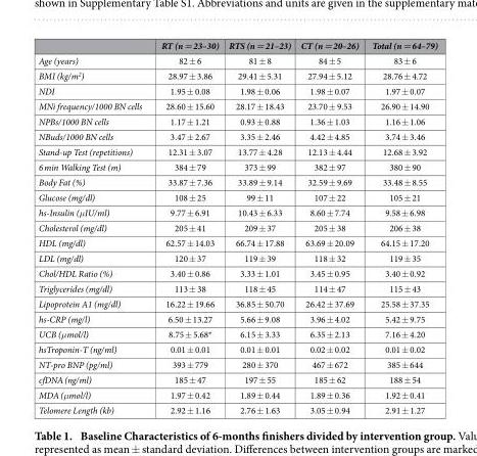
<table><thead><tr><td></td><td>RT (n = 23–30)</td><td>RTS (n = 21–23)</td><td>CT (n = 20–26)</td><td>Total (n = 64–79)</td></tr></thead><tbody><tr><td>Age (years)</td><td>82 ± 6</td><td>81 ± 8</td><td>84 ± 5</td><td>83 ± 6</td></tr><tr><td>BMI (kg/m<sup>2</sup>)</td><td>28.97 ± 3.86</td><td>29.41 ± 5.31</td><td>27.94 ± 5.12</td><td>28.76 ± 4.72</td></tr><tr><td>NDI</td><td>1.95 ± 0.08</td><td>1.98 ± 0.06</td><td>1.98 ± 0.07</td><td>1.97 ± 0.07</td></tr><tr><td>MNi frequency/1000 BN cells</td><td>28.60 ± 15.60</td><td>28.17 ± 18.43</td><td>23.70 ± 9.53</td><td>26.90 ± 14.90</td></tr><tr><td>NPBs/1000 BN cells</td><td>1.17 ± 1.21</td><td>0.93 ± 0.88</td><td>1.36 ± 1.03</td><td>1.16 ± 1.06</td></tr><tr><td>NBuds/1000 BN cells</td><td>3.47 ± 2.67</td><td>3.35 ± 2.46</td><td>4.42 ± 4.85</td><td>3.74 ± 3.46</td></tr><tr><td>Stand-up Test (repetitions)</td><td>12.31 ± 3.07</td><td>13.77 ± 4.28</td><td>12.13 ± 4.44</td><td>12.68 ± 3.92</td></tr><tr><td>6 min Walking Test (m)</td><td>384 ± 79</td><td>373 ± 99</td><td>382 ± 97</td><td>380 ± 90</td></tr><tr><td>Body Fat (%)</td><td>33.87 ± 7.36</td><td>33.89 ± 9.14</td><td>32.59 ± 9.69</td><td>33.48 ± 8.55</td></tr><tr><td>Glucose (mg/dl)</td><td>108 ± 25</td><td>99 ± 11</td><td>107 ± 22</td><td>105 ± 21</td></tr><tr><td>hs-Insulin (μ IU/ml)</td><td>9.77 ± 6.91</td><td>10.43 ± 6.33</td><td>8.60 ± 7.74</td><td>9.58 ± 6.98</td></tr><tr><td>Cholesterol (mg/dl)</td><td>205 ± 41</td><td>209 ± 37</td><td>205 ± 38</td><td>206 ± 38</td></tr><tr><td>HDL (mg/dl)</td><td>62.57 ± 14.03</td><td>66.74 ± 17.88</td><td>63.69 ± 20.09</td><td>64.15 ± 17.20</td></tr><tr><td>LDL (mg/dl)</td><td>120 ± 37</td><td>119 ± 39</td><td>118 ± 32</td><td>119 ± 35</td></tr><tr><td>Chol/HDL Ratio (%)</td><td>3.40 ± 0.86</td><td>3.33 ± 1.01</td><td>3.45 ± 0.95</td><td>3.40 ± 0.92</td></tr><tr><td>Triglycerides (mg/dl)</td><td>113 ± 38</td><td>118 ± 45</td><td>114 ± 47</td><td>115 ± 43</td></tr><tr><td>Lipoprotein A1 (mg/dl)</td><td>16.22 ± 19.66</td><td>36.85 ± 50.70</td><td>26.42 ± 37.69</td><td>25.58 ± 37.35</td></tr><tr><td>hs-CRP (mg/l)</td><td>6.50 ± 13.27</td><td>5.66 ± 9.08</td><td>3.96 ± 4.02</td><td>5.42 ± 9.75</td></tr><tr><td>UCB (μ mol/l)</td><td>8.75 ± 5.68*</td><td>6.15 ± 3.33</td><td>6.35 ± 2.13</td><td>7.16 ± 4.20</td></tr><tr><td>hsTroponin-T (ng/ml)</td><td>0.01 ± 0.01</td><td>0.01 ± 0.01</td><td>0.02 ± 0.02</td><td>0.01 ± 0.02</td></tr><tr><td>NT-pro BNP (pg/ml)</td><td>393 ± 779</td><td>280 ± 370</td><td>467 ± 672</td><td>385 ± 644</td></tr><tr><td>cfDNA (ng/ml)</td><td>185 ± 47</td><td>197 ± 55</td><td>185 ± 62</td><td>188 ± 54</td></tr><tr><td>MDA (μ mol/l)</td><td>1.97 ± 0.42</td><td>1.89 ± 0.44</td><td>1.89 ± 0.36</td><td>1.92 ± 0.41</td></tr><tr><td>Telomere Length (kb)</td><td>2.92 ± 1.16</td><td>2.76 ± 1.63</td><td>3.05 ± 0.94</td><td>2.91 ± 1.27</td></tr></tbody></table>